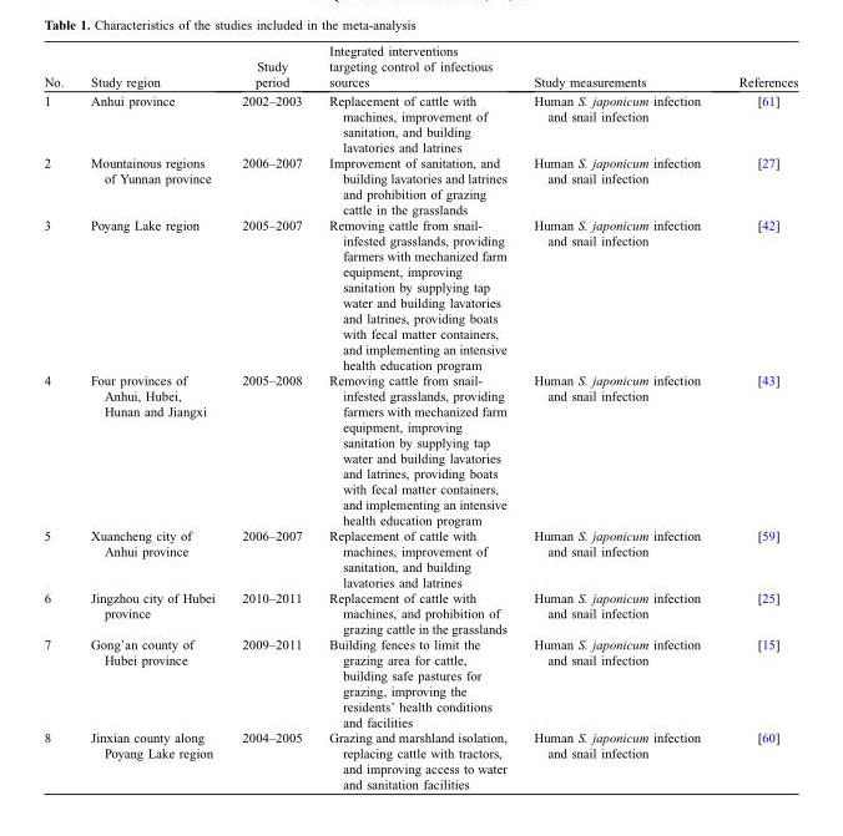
<table><thead><tr><td>No.</td><td>Study region</td><td>Study period</td><td>Integrated interventions targeting control of infectious sources</td><td>Study measurements</td><td>References</td></tr></thead><tbody><tr><td>1</td><td>Anhui province</td><td>2002–2003</td><td>Replacement of cattle with machines, improvement of sanitation, and building lavatories and latrines</td><td>Human S. japonicum infection and snail infection</td><td>[61]</td></tr><tr><td>2</td><td>Mountainous regions of Yunnan province</td><td>2006–2007</td><td>Improvement of sanitation, and building lavatories and latrines and prohibition of grazing cattle in the grasslands</td><td>Human S. japonicum infection and snail infection</td><td>[27]</td></tr><tr><td>3</td><td>Poyang Lake region</td><td>2005–2007</td><td>Removing cattle from snail- infested grasslands, providing farmers with mechanized farm equipment, improving sanitation by supplying tap water and building lavatories and latrines, providing boats with fecal matter containers, and implementing an intensive health education program</td><td>Human S. japonicum infection and snail infection</td><td>[42]</td></tr><tr><td>4</td><td>Four provinces of Anhui, Hubei, Hunan and Jiangxi</td><td>2005–2008</td><td>Removing cattle from snail- infested grasslands, providing farmers with mechanized farm equipment, improving sanitation by supplying tap water and building lavatories and latrines, providing boats with fecal matter containers, and implementing an intensive health education program</td><td>Human S. japonicum infection and snail infection</td><td>[43]</td></tr><tr><td>5</td><td>Xuancheng city of Anhui province</td><td>2006–2007</td><td>Replacement of cattle with machines, improvement of sanitation, and building lavatories and latrines</td><td>Human S. japonicum infection and snail infection</td><td>[59]</td></tr><tr><td>6</td><td>Jingzhou city of Hubei province</td><td>2010–2011</td><td>Replacement of cattle with machines, and prohibition of grazing cattle in the grasslands</td><td>Human S. japonicum infection and snail infection</td><td>[25]</td></tr><tr><td>7</td><td>Gong’an county of Hubei province</td><td>2009–2011</td><td>Building fences to limit the grazing area for cattle, building safe pastures for grazing, improving the residents’ health conditions and facilities</td><td>Human S. japonicum infection and snail infection</td><td>[15]</td></tr><tr><td>8</td><td>Jinxian county along Poyang Lake region</td><td>2004–2005</td><td>Grazing and marshland isolation, replacing cattle with tractors, and improving access to water and sanitation facilities</td><td>Human S. japonicum infection and snail infection</td><td>[60]</td></tr></tbody></table>